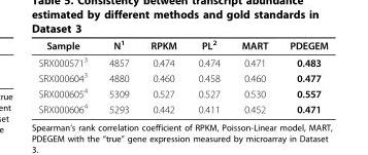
<table><thead><tr><td>Sample</td><td>N<sup>1</sup></td><td>RPKM</td><td>PL<sup>2</sup></td><td>MART</td><td>PDEGEM</td></tr></thead><tbody><tr><td>SRX000571<sup>3</sup></td><td>4857</td><td>0.474</td><td>0.474</td><td>0.471</td><td>0.483</td></tr><tr><td>SRX000604<sup>3</sup></td><td>4880</td><td>0.460</td><td>0.458</td><td>0.460</td><td>0.477</td></tr><tr><td>SRX000605<sup>4</sup></td><td>5309</td><td>0.527</td><td>0.527</td><td>0.530</td><td>0.557</td></tr><tr><td>SRX000606<sup>4</sup></td><td>5293</td><td>0.442</td><td>0.411</td><td>0.452</td><td>0.471</td></tr></tbody></table>